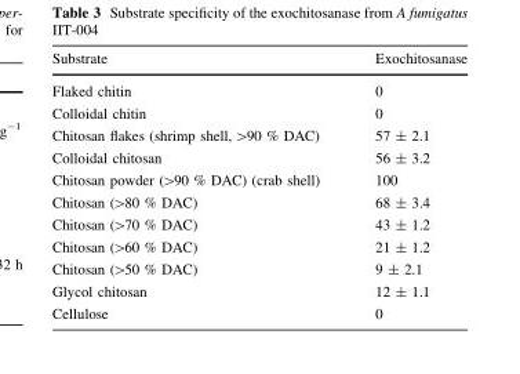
<table><thead><tr><td>Substrate</td><td>Exochitosanase</td></tr></thead><tbody><tr><td>Flaked chitin</td><td>0</td></tr><tr><td>Colloidal chitin</td><td>0</td></tr><tr><td>Chitosan flakes (shrimp shell, &gt;90 % DAC)</td><td>57 ± 2.1</td></tr><tr><td>Colloidal chitosan</td><td>56 ± 3.2</td></tr><tr><td>Chitosan powder (&gt;90 % DAC) (crab shell)</td><td>100</td></tr><tr><td>Chitosan (&gt;80 % DAC)</td><td>68 ± 3.4</td></tr><tr><td>Chitosan (&gt;70 % DAC)</td><td>43 ± 1.2</td></tr><tr><td>Chitosan (&gt;60 % DAC)</td><td>21 ± 1.2</td></tr><tr><td>Chitosan (&gt;50 % DAC)</td><td>9 ± 2.1</td></tr><tr><td>Glycol chitosan</td><td>12 ± 1.1</td></tr><tr><td>Cellulose</td><td>0</td></tr></tbody></table>